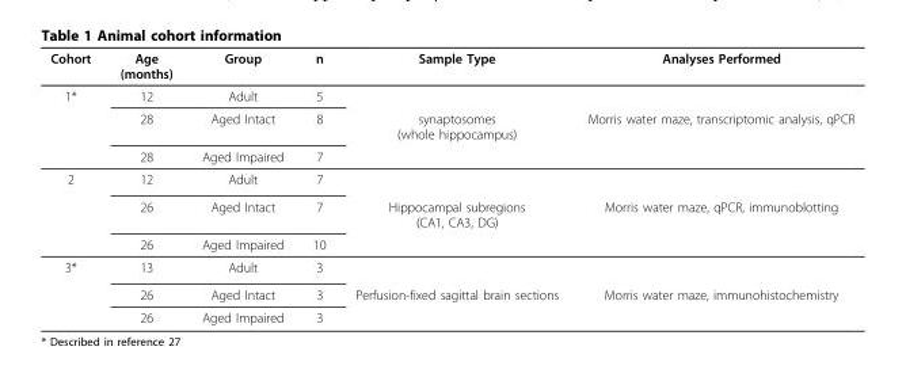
<table><thead><tr><td>Cohort</td><td>Age (months)</td><td>Group</td><td>n</td><td>Sample Type</td><td>Analyses Performed</td></tr></thead><tbody><tr><td rowspan="3">1*</td><td>12</td><td>Adult</td><td>5</td><td></td><td></td></tr><tr><td>28</td><td>Aged Intact</td><td>8</td><td>synaptosomes (whole hippocampus)</td><td>Morris water maze, transcriptomic analysis, qPCR</td></tr><tr><td>28</td><td>Aged Impaired</td><td>7</td><td></td><td></td></tr><tr><td rowspan="3">2</td><td>12</td><td>Adult</td><td>7</td><td></td><td></td></tr><tr><td>26</td><td>Aged Intact</td><td>7</td><td>Hippocampal subregions (CA1, CA3, DG)</td><td>Morris water maze, qPCR, immunoblotting</td></tr><tr><td>26</td><td>Aged Impaired</td><td>10</td><td></td><td></td></tr><tr><td rowspan="3">3*</td><td>13</td><td>Adult</td><td>3</td><td></td><td></td></tr><tr><td>26</td><td>Aged Intact</td><td>3</td><td>Perfusion-fixed sagittal brain sections</td><td>Morris water maze, immunohistochemistry</td></tr><tr><td>26</td><td>Aged Impaired</td><td>3</td><td></td><td></td></tr></tbody></table>